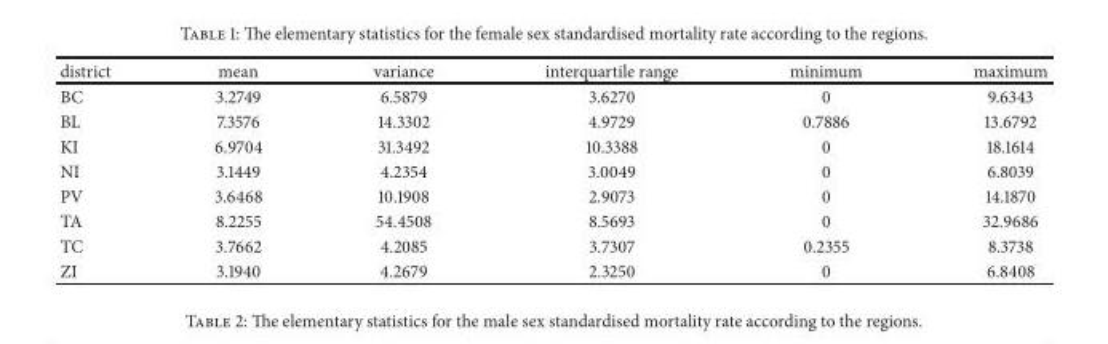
<table><thead><tr><td>district</td><td>mean</td><td>variance</td><td>interquartile range</td><td>minimum</td><td>maximum</td></tr></thead><tbody><tr><td>BC</td><td>3.2749</td><td>6.5879</td><td>3.6270</td><td>0</td><td>9.6343</td></tr><tr><td>BL</td><td>7.3576</td><td>14.3302</td><td>4.9729</td><td>0.7886</td><td>13.6792</td></tr><tr><td>KI</td><td>6.9704</td><td>31.3492</td><td>10.3388</td><td>0</td><td>18.1614</td></tr><tr><td>NI</td><td>3.1449</td><td>4.2354</td><td>3.0049</td><td>0</td><td>6.8039</td></tr><tr><td>PV</td><td>3.6468</td><td>10.1908</td><td>2.9073</td><td>0</td><td>14.1870</td></tr><tr><td>TA</td><td>8.2255</td><td>54.4508</td><td>8.5693</td><td>0</td><td>32.9686</td></tr><tr><td>TC</td><td>3.7662</td><td>4.2085</td><td>3.7307</td><td>0.2355</td><td>8.3738</td></tr><tr><td>ZI</td><td>3.1940</td><td>4.2679</td><td>2.3250</td><td>0</td><td>6.8408</td></tr></tbody></table>